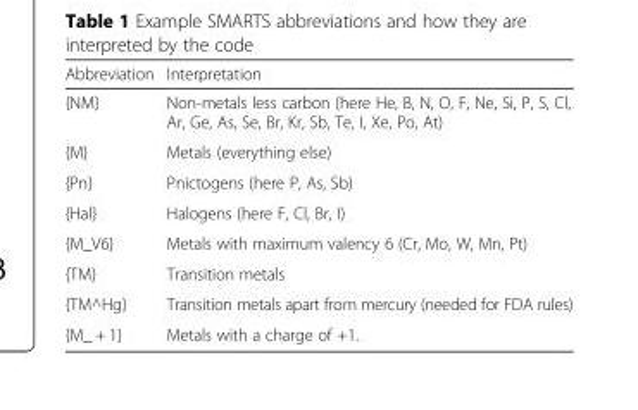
<table><thead><tr><td>Abbreviation</td><td>Interpretation</td></tr></thead><tbody><tr><td>{NM}</td><td>Non-metals less carbon (here He, B, N, O, F, Ne, Si, P, S, Cl, Ar, Ge, As, Se, Br, Kr, Sb, Te, I, Xe, Po, At)</td></tr><tr><td>{M}</td><td>Metals (everything else)</td></tr><tr><td>{Pn}</td><td>Pnictogens (here P, As, Sb)</td></tr><tr><td>{Hal}</td><td>Halogens (here F, Cl, Br, I)</td></tr><tr><td>{M_V6}</td><td>Metals with maximum valency 6 (Cr, Mo, W, Mn, Pt)</td></tr><tr><td>{TM}</td><td>Transition metals</td></tr><tr><td>{TM^Hg}</td><td>Transition metals apart from mercury (needed for FDA rules)</td></tr><tr><td>{M_ + 1}</td><td>Metals with a charge of +1.</td></tr></tbody></table>